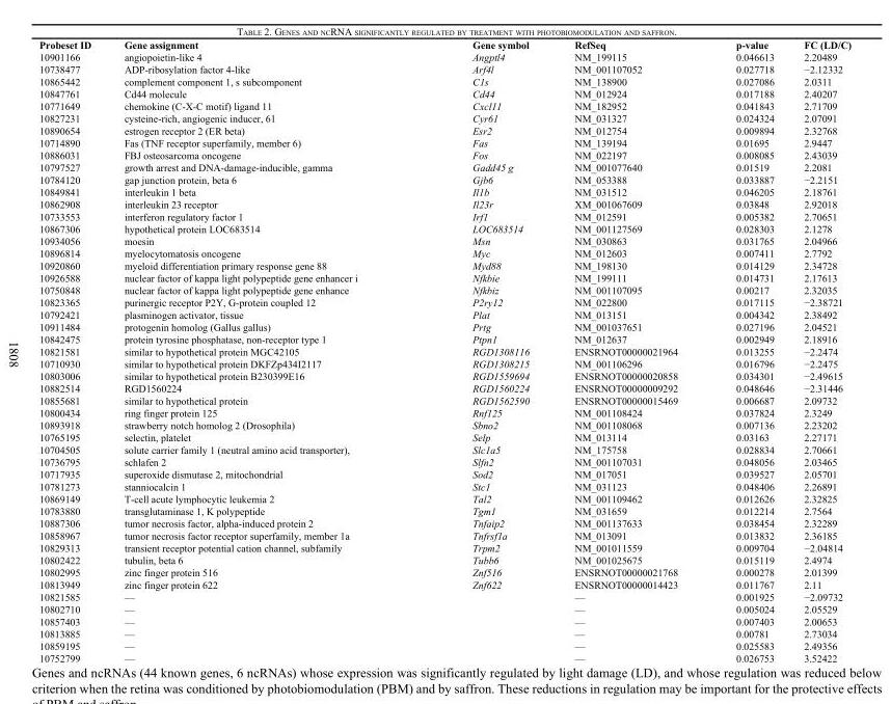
<table><thead><tr><td>Probeset ID</td><td>Gene assignment</td><td>Gene symbol</td><td>RefSeq</td><td>p-value</td><td>FC (LD/C)</td></tr></thead><tbody><tr><td>10901166</td><td>angiopoietin-like 4</td><td>Angptl4</td><td>NM_199115</td><td>0.046613</td><td>2.20489</td></tr><tr><td>10738477</td><td>ADP-ribosylation factor 4-like</td><td>Arf4l</td><td>NM_001107052</td><td>0.027718</td><td>−2.12332</td></tr><tr><td>10865442</td><td>complement component 1, s subcomponent</td><td>C1s</td><td>NM_138900</td><td>0.027086</td><td>2.0311</td></tr><tr><td>10847761</td><td>Cd44 molecule</td><td>Cd44</td><td>NM_012924</td><td>0.017188</td><td>2.40207</td></tr><tr><td>10771649</td><td>chemokine (C-X-C motif) ligand 11</td><td>Cxcl11</td><td>NM_182952</td><td>0.041843</td><td>2.71709</td></tr><tr><td>10827231</td><td>cysteine-rich, angiogenic inducer, 61</td><td>Cyr61</td><td>NM_031327</td><td>0.024324</td><td>2.07091</td></tr><tr><td>10890654</td><td>estrogen receptor 2 (ER beta)</td><td>Esr2</td><td>NM_012754</td><td>0.009894</td><td>2.32768</td></tr><tr><td>10714890</td><td>Fas (TNF receptor superfamily, member 6)</td><td>Fas</td><td>NM_139194</td><td>0.01695</td><td>2.9447</td></tr><tr><td>10886031</td><td>FBJ osteosarcoma oncogene</td><td>Fos</td><td>NM_022197</td><td>0.008085</td><td>2.43039</td></tr><tr><td>10797527</td><td>growth arrest and DNA-damage-inducible, gamma</td><td>Gadd45 g</td><td>NM_001077640</td><td>0.01519</td><td>2.2081</td></tr><tr><td>10784120</td><td>gap junction protein, beta 6</td><td>Gjb6</td><td>NM_053388</td><td>0.033887</td><td>−2.2151</td></tr><tr><td>10849841</td><td>interleukin 1 beta</td><td>Il1b</td><td>NM_031512</td><td>0.046205</td><td>2.18761</td></tr><tr><td>10862908</td><td>interleukin 23 receptor</td><td>Il23r</td><td>XM_001067609</td><td>0.03848</td><td>2.92018</td></tr><tr><td>10733553</td><td>interferon regulatory factor 1</td><td>Irf1</td><td>NM_012591</td><td>0.005382</td><td>2.70651</td></tr><tr><td>10867306</td><td>hypothetical protein LOC683514</td><td>LOC683514</td><td>NM_001127569</td><td>0.028303</td><td>2.1278</td></tr><tr><td>10934056</td><td>moesin</td><td>Msn</td><td>NM_030863</td><td>0.031765</td><td>2.04966</td></tr><tr><td>10896814</td><td>myelocytomatosis oncogene</td><td>Myc</td><td>NM_012603</td><td>0.007411</td><td>2.7792</td></tr><tr><td>10920860</td><td>myeloid differentiation primary response gene 88</td><td>Myd88</td><td>NM_198130</td><td>0.014129</td><td>2.34728</td></tr><tr><td>10926588</td><td>nuclear factor of kappa light polypeptide gene enhancer i</td><td>Nfkbie</td><td>NM_199111</td><td>0.014731</td><td>2.17613</td></tr><tr><td>10750848</td><td>nuclear factor of kappa light polypeptide gene enhance</td><td>Nfkbiz</td><td>NM_001107095</td><td>0.00217</td><td>2.32035</td></tr><tr><td>10823365</td><td>purinergic receptor P2Y, G-protein coupled 12</td><td>P2ry12</td><td>NM_022800</td><td>0.017115</td><td>−2.38721</td></tr><tr><td>10792421</td><td>plasminogen activator, tissue</td><td>Plat</td><td>NM_013151</td><td>0.004342</td><td>2.38492</td></tr><tr><td>10911484</td><td>protogenin homolog (Gallus gallus)</td><td>Prtg</td><td>NM_001037651</td><td>0.027196</td><td>2.04521</td></tr><tr><td>10842475</td><td>protein tyrosine phosphatase, non-receptor type 1</td><td>Ptpn1</td><td>NM_012637</td><td>0.002949</td><td>2.18916</td></tr><tr><td>10821581</td><td>similar to hypothetical protein MGC42105</td><td>RGD1308116</td><td>ENSRNOT00000021964</td><td>0.013255</td><td>−2.2474</td></tr><tr><td>10710930</td><td>similar to hypothetical protein DKFZp434I2117</td><td>RGD1308215</td><td>NM_001106296</td><td>0.016796</td><td>−2.2475</td></tr><tr><td>10803006</td><td>similar to hypothetical protein B230399E16</td><td>RGD1559694</td><td>ENSRNOT00000020858</td><td>0.034301</td><td>−2.49615</td></tr><tr><td>10882514</td><td>RGD1560224</td><td>RGD1560224</td><td>ENSRNOT00000009292</td><td>0.048646</td><td>−2.31446</td></tr><tr><td>10855681</td><td>similar to hypothetical protein</td><td>RGD1562590</td><td>ENSRNOT00000015469</td><td>0.006687</td><td>2.09732</td></tr><tr><td>10800434</td><td>ring finger protein 125</td><td>Rnf125</td><td>NM_001108424</td><td>0.037824</td><td>2.3249</td></tr><tr><td>10893918</td><td>strawberry notch homolog 2 (Drosophila)</td><td>Sbno2</td><td>NM_001108068</td><td>0.007136</td><td>2.23202</td></tr><tr><td>10765195</td><td>selectin, platelet</td><td>Selp</td><td>NM_013114</td><td>0.03163</td><td>2.27171</td></tr><tr><td>10704505</td><td>solute carrier family 1 (neutral amino acid transporter),</td><td>Slc1a5</td><td>NM_175758</td><td>0.028834</td><td>2.70661</td></tr><tr><td>10736795</td><td>schlafen 2</td><td>Slfn2</td><td>NM_001107031</td><td>0.048056</td><td>2.03465</td></tr><tr><td>10717935</td><td>superoxide dismutase 2, mitochondrial</td><td>Sod2</td><td>NM_017051</td><td>0.039527</td><td>2.05701</td></tr><tr><td>10781273</td><td>stanniocalcin 1</td><td>Stc1</td><td>NM_031123</td><td>0.048406</td><td>2.26891</td></tr><tr><td>10869149</td><td>T-cell acute lymphocytic leukemia 2</td><td>Tal2</td><td>NM_001109462</td><td>0.012626</td><td>2.32825</td></tr><tr><td>10783880</td><td>transglutaminase 1, K polypeptide</td><td>Tgm1</td><td>NM_031659</td><td>0.012214</td><td>2.7564</td></tr><tr><td>10887306</td><td>tumor necrosis factor, alpha-induced protein 2</td><td>Tnfaip2</td><td>NM_001137633</td><td>0.038454</td><td>2.32289</td></tr><tr><td>10858967</td><td>tumor necrosis factor receptor superfamily, member 1a</td><td>Tnfrsf1a</td><td>NM_013091</td><td>0.013832</td><td>2.36185</td></tr><tr><td>10829313</td><td>transient receptor potential cation channel, subfamily</td><td>Trpm2</td><td>NM_001011559</td><td>0.009704</td><td>−2.04814</td></tr><tr><td>10802422</td><td>tubulin, beta 6</td><td>Tubb6</td><td>NM_001025675</td><td>0.015119</td><td>2.4974</td></tr><tr><td>10802995</td><td>zinc finger protein 516</td><td>Znf516</td><td>ENSRNOT00000021768</td><td>0.000278</td><td>2.01399</td></tr><tr><td>10813949</td><td>zinc finger protein 622</td><td>Znf622</td><td>ENSRNOT00000014423</td><td>0.011767</td><td>2.11</td></tr><tr><td>10821585</td><td>—</td><td></td><td>—</td><td>0.001925</td><td>−2.09732</td></tr><tr><td>10802710</td><td>—</td><td></td><td>—</td><td>0.005024</td><td>2.05529</td></tr><tr><td>10857403</td><td>—</td><td></td><td>—</td><td>0.007403</td><td>2.00653</td></tr><tr><td>10813885</td><td>—</td><td></td><td>—</td><td>0.00781</td><td>2.73034</td></tr><tr><td>10859195</td><td>—</td><td></td><td>—</td><td>0.025583</td><td>2.49356</td></tr><tr><td>10752799</td><td>—</td><td></td><td>—</td><td>0.026753</td><td>3.52422</td></tr></tbody></table>